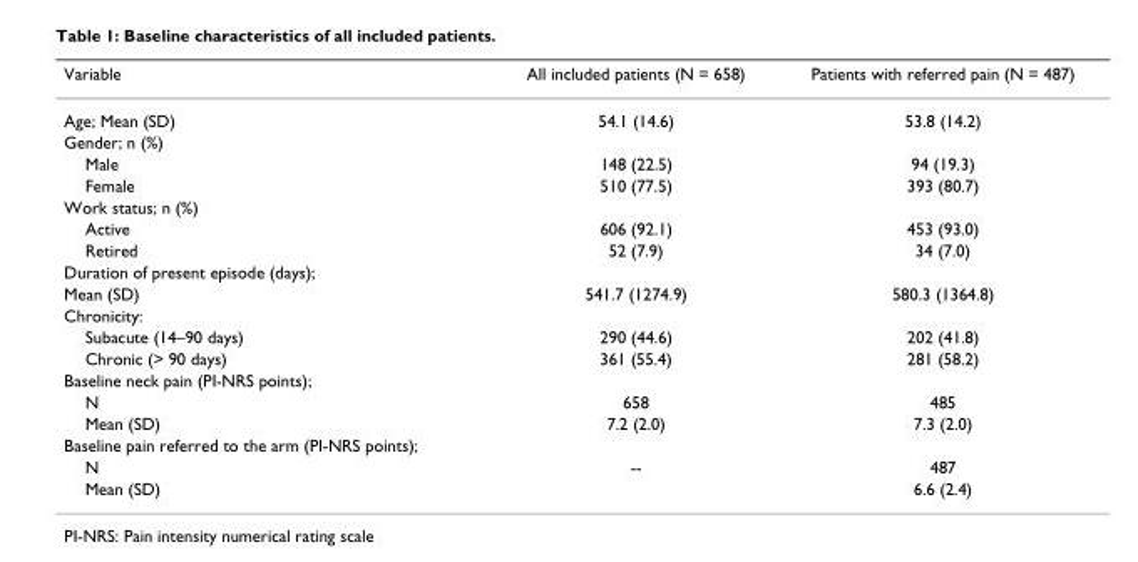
<table><thead><tr><td>Variable</td><td>All included patients (N = 658)</td><td>Patients with referred pain (N = 487)</td></tr></thead><tbody><tr><td>Age; Mean (SD)</td><td>54.1 (14.6)</td><td>53.8 (14.2)</td></tr><tr><td colspan="3">Gender; n (%)</td></tr><tr><td>Male</td><td>148 (22.5)</td><td>94 (19.3)</td></tr><tr><td>Female</td><td>510 (77.5)</td><td>393 (80.7)</td></tr><tr><td colspan="3">Work status; n (%)</td></tr><tr><td>Active</td><td>606 (92.1)</td><td>453 (93.0)</td></tr><tr><td>Retired</td><td>52 (7.9)</td><td>34 (7.0)</td></tr><tr><td colspan="3">Duration of present episode (days);</td></tr><tr><td>Mean (SD)</td><td>541.7 (1274.9)</td><td>580.3 (1364.8)</td></tr><tr><td colspan="3">Chronicity:</td></tr><tr><td>Subacute (14–90 days)</td><td>290 (44.6)</td><td>202 (41.8)</td></tr><tr><td>Chronic (&gt; 90 days)</td><td>361 (55.4)</td><td>281 (58.2)</td></tr><tr><td colspan="3">Baseline neck pain (PI-NRS points);</td></tr><tr><td>N</td><td>658</td><td>485</td></tr><tr><td>Mean (SD)</td><td>7.2 (2.0)</td><td>7.3 (2.0)</td></tr><tr><td colspan="3">Baseline pain referred to the arm (PI-NRS points);</td></tr><tr><td>N</td><td>--</td><td>487</td></tr><tr><td>Mean (SD)</td><td></td><td>6.6 (2.4)</td></tr></tbody></table>